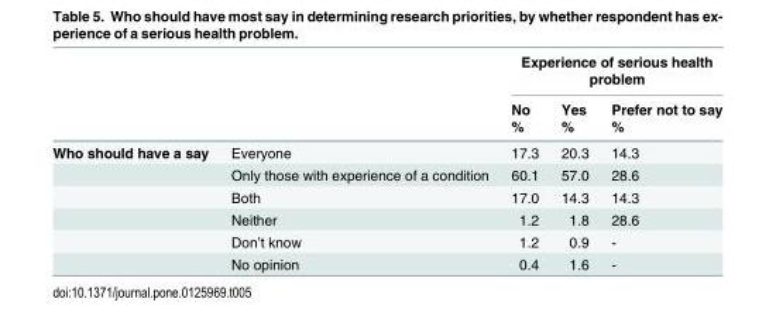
<table><thead><tr><td rowspan="3"></td><td rowspan="3"></td><td colspan="3">Experience of serious health problem</td></tr><tr><td rowspan="2">No %</td><td rowspan="2">Yes %</td><td rowspan="2">Prefer not to say %</td></tr><tr></tr></thead><tbody><tr><td rowspan="6">Who should have a say</td><td>Everyone</td><td>17.3</td><td>20.3</td><td>14.3</td></tr><tr><td>Only those with experience of a condition</td><td>60.1</td><td>57.0</td><td>28.6</td></tr><tr><td>Both</td><td>17.0</td><td>14.3</td><td>14.3</td></tr><tr><td>Neither</td><td>1.2</td><td>1.8</td><td>28.6</td></tr><tr><td>Don’t know</td><td>1.2</td><td>0.9</td><td>-</td></tr><tr><td>No opinion</td><td>0.4</td><td>1.6</td><td>-</td></tr></tbody></table>